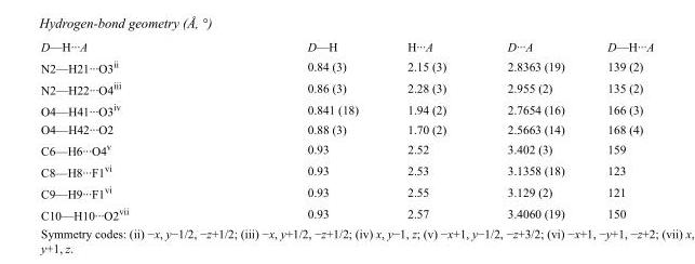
<table><tbody><tr><td>D—H···A</td><td>D—H</td><td>H···A</td><td>D···A</td><td>D—H···A</td></tr><tr><td>N2—H21···O3<sup>ii</sup></td><td>0.84 (3)</td><td>2.15 (3)</td><td>2.8363 (19)</td><td>139 (2)</td></tr><tr><td>N2—H22···O4<sup>iii</sup></td><td>0.86 (3)</td><td>2.28 (3)</td><td>2.955 (2)</td><td>135 (2)</td></tr><tr><td>O4—H41···O3<sup>iv</sup></td><td>0.841 (18)</td><td>1.94 (2)</td><td>2.7654 (16)</td><td>166 (3)</td></tr><tr><td>O4—H42···O2</td><td>0.88 (3)</td><td>1.70 (2)</td><td>2.5663 (14)</td><td>168 (4)</td></tr><tr><td>C6—H6···O4<sup>v</sup></td><td>0.93</td><td>2.52</td><td>3.402 (3)</td><td>159</td></tr><tr><td>C8—H8···F1<sup>vi</sup></td><td>0.93</td><td>2.53</td><td>3.1358 (18)</td><td>123</td></tr><tr><td>C9—H9···F1<sup>vi</sup></td><td>0.93</td><td>2.55</td><td>3.129 (2)</td><td>121</td></tr><tr><td>C10—H10···O2<sup>vii</sup></td><td>0.93</td><td>2.57</td><td>3.4060 (19)</td><td>150</td></tr></tbody></table>